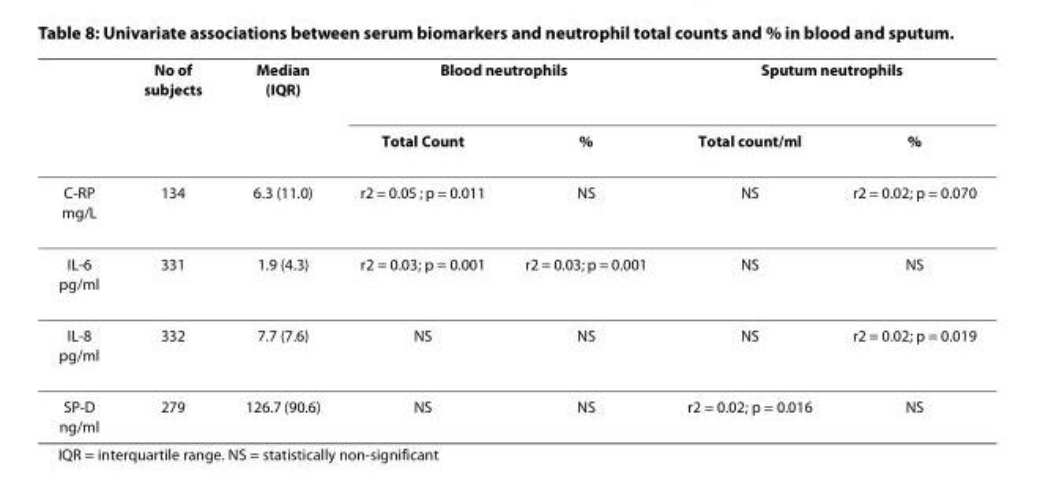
<table><thead><tr><td rowspan="2"></td><td rowspan="2">No of subjects</td><td rowspan="2">Median (IQR)</td><td colspan="2">Blood neutrophils</td><td colspan="2">Sputum neutrophils</td></tr><tr><td>Total Count</td><td>%</td><td>Total count/ml</td><td>%</td></tr></thead><tbody><tr><td>C-RP mg/L</td><td>134</td><td>6.3 (11.0)</td><td>r2 = 0.05 ; p = 0.011</td><td>NS</td><td>NS</td><td>r2 = 0.02; p = 0.070</td></tr><tr><td>IL-6 pg/ml</td><td>331</td><td>1.9 (4.3)</td><td>r2 = 0.03; p = 0.001</td><td>r2 = 0.03; p = 0.001</td><td>NS</td><td>NS</td></tr><tr><td>IL-8 pg/ml</td><td>332</td><td>7.7 (7.6)</td><td>NS</td><td>NS</td><td>NS</td><td>r2 = 0.02; p = 0.019</td></tr><tr><td>SP-D ng/ml</td><td>279</td><td>126.7 (90.6)</td><td>NS</td><td>NS</td><td>r2 = 0.02; p = 0.016</td><td>NS</td></tr></tbody></table>